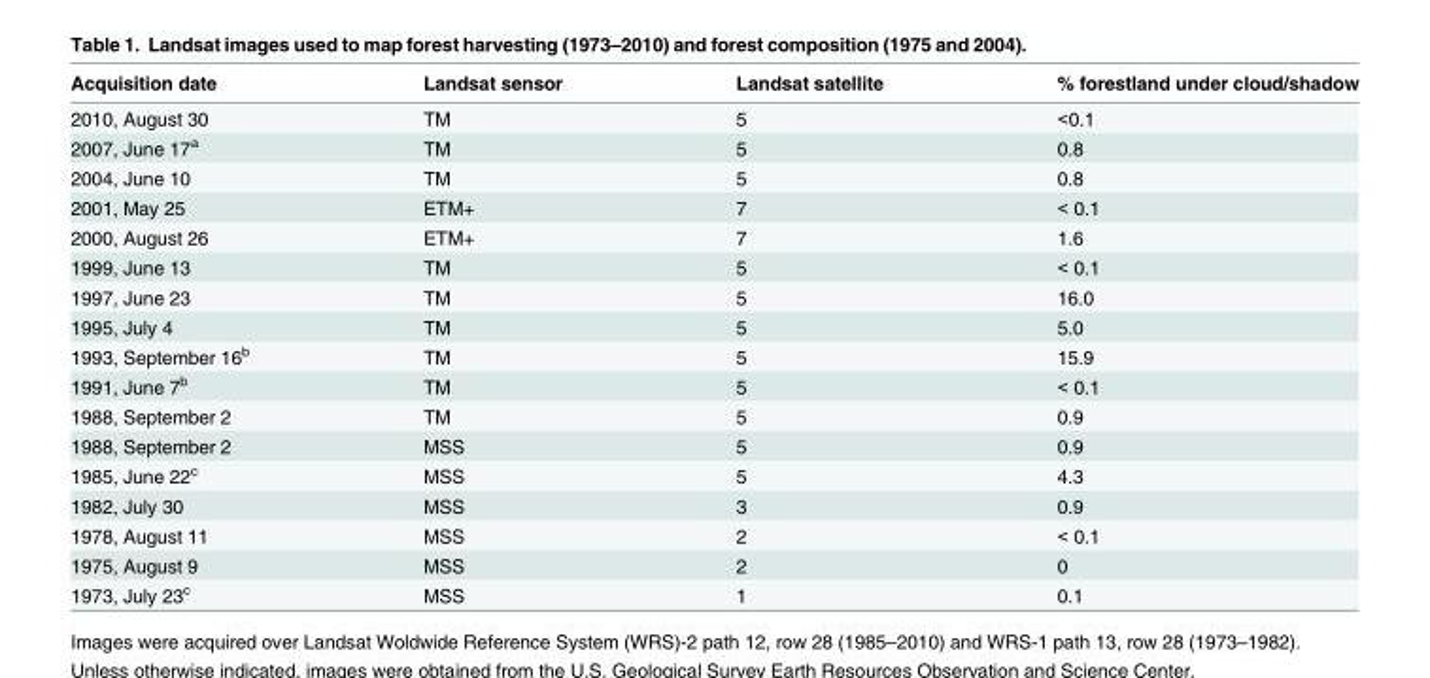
<table><thead><tr><td>Acquisition date</td><td>Landsat sensor</td><td>Landsat satellite</td><td>% forestland under cloud/shadow</td></tr></thead><tbody><tr><td>2010, August 30</td><td>TM</td><td>5</td><td>&lt;0.1</td></tr><tr><td>2007, June 17<sup>a</sup></td><td>TM</td><td>5</td><td>0.8</td></tr><tr><td>2004, June 10</td><td>TM</td><td>5</td><td>0.8</td></tr><tr><td>2001, May 25</td><td>ETM+</td><td>7</td><td>&lt; 0.1</td></tr><tr><td>2000, August 26</td><td>ETM+</td><td>7</td><td>1.6</td></tr><tr><td>1999, June 13</td><td>TM</td><td>5</td><td>&lt; 0.1</td></tr><tr><td>1997, June 23</td><td>TM</td><td>5</td><td>16.0</td></tr><tr><td>1995, July 4</td><td>TM</td><td>5</td><td>5.0</td></tr><tr><td>1993, September 16<sup>b</sup></td><td>TM</td><td>5</td><td>15.9</td></tr><tr><td>1991, June 7<sup>b</sup></td><td>TM</td><td>5</td><td>&lt; 0.1</td></tr><tr><td>1988, September 2</td><td>TM</td><td>5</td><td>0.9</td></tr><tr><td>1988, September 2</td><td>MSS</td><td>5</td><td>0.9</td></tr><tr><td>1985, June 22<sup>c</sup></td><td>MSS</td><td>5</td><td>4.3</td></tr><tr><td>1982, July 30</td><td>MSS</td><td>3</td><td>0.9</td></tr><tr><td>1978, August 11</td><td>MSS</td><td>2</td><td>&lt; 0.1</td></tr><tr><td>1975, August 9</td><td>MSS</td><td>2</td><td>0</td></tr><tr><td>1973, July 23<sup>c</sup></td><td>MSS</td><td>1</td><td>0.1</td></tr></tbody></table>